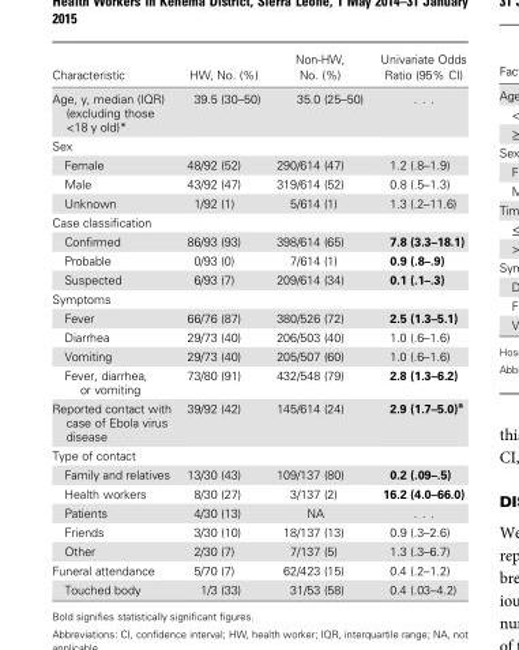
<table><thead><tr><td>Characteristic</td><td>HW, No. (%)</td><td>Non-HW, No. (%)</td><td>Univariate Odds Ratio (95% CI)</td></tr></thead><tbody><tr><td>Age, y, median (IQR) (excluding those &lt;18 y old)*</td><td>39.5 (30–50)</td><td>35.0 (25–50)</td><td>. . .</td></tr><tr><td colspan="4">Sex</td></tr><tr><td>Female</td><td>48/92 (52)</td><td>290/614 (47)</td><td>1.2 (.8–1.9)</td></tr><tr><td>Male</td><td>43/92 (47)</td><td>319/614 (52)</td><td>0.8 (.5–1.3)</td></tr><tr><td>Unknown</td><td>1/92 (1)</td><td>5/614 (1)</td><td>1.3 (.2–11.6)</td></tr><tr><td colspan="4">Case classification</td></tr><tr><td>Confirmed</td><td>86/93 (93)</td><td>398/614 (65)</td><td>7.8 (3.3–18.1)</td></tr><tr><td>Probable</td><td>0/93 (0)</td><td>7/614 (1)</td><td>0.9 (.8–.9)</td></tr><tr><td>Suspected</td><td>6/93 (7)</td><td>209/614 (34)</td><td>0.1 (.1–.3)</td></tr><tr><td colspan="4">Symptoms</td></tr><tr><td>Fever</td><td>66/76 (87)</td><td>380/526 (72)</td><td>2.5 (1.3–5.1)</td></tr><tr><td>Diarrhea</td><td>29/73 (40)</td><td>206/503 (40)</td><td>1.0 (.6–1.6)</td></tr><tr><td>Vomiting</td><td>29/73 (40)</td><td>205/507 (60)</td><td>1.0 (.6–1.6)</td></tr><tr><td>Fever, diarrhea, or vomiting</td><td>73/80 (91)</td><td>432/548 (79)</td><td>2.8 (1.3–6.2)</td></tr><tr><td>Reported contact with case of Ebola virus disease</td><td>39/92 (42)</td><td>145/614 (24)</td><td>2.9 (1.7–5.0)<sup>a</sup></td></tr><tr><td colspan="4">Type of contact</td></tr><tr><td>Family and relatives</td><td>13/30 (43)</td><td>109/137 (80)</td><td>0.2 (.09–.5)</td></tr><tr><td>Health workers</td><td>8/30 (27)</td><td>3/137 (2)</td><td>16.2 (4.0–66.0)</td></tr><tr><td>Patients</td><td>4/30 (13)</td><td>NA</td><td>. . .</td></tr><tr><td>Friends</td><td>3/30 (10)</td><td>18/137 (13)</td><td>0.9 (.3–2.6)</td></tr><tr><td>Other</td><td>2/30 (7)</td><td>7/137 (5)</td><td>1.3 (.3–6.7)</td></tr><tr><td>Funeral attendance</td><td>5/70 (7)</td><td>62/423 (15)</td><td>0.4 (.2–1.2)</td></tr><tr><td>Touched body</td><td>1/3 (33)</td><td>31/53 (58)</td><td>0.4 (.03–4.2)</td></tr></tbody></table>